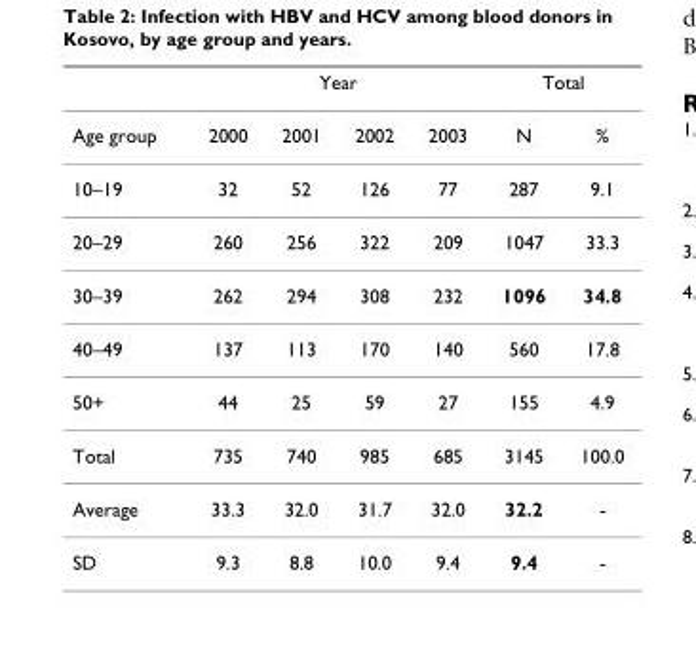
<table><thead><tr><td rowspan="2">Age group</td><td colspan="4">Year</td><td colspan="2">Total</td></tr><tr><td>2000</td><td>2001</td><td>2002</td><td>2003</td><td>N</td><td>%</td></tr></thead><tbody><tr><td>10–19</td><td>32</td><td>52</td><td>126</td><td>77</td><td>287</td><td>9.1</td></tr><tr><td>20–29</td><td>260</td><td>256</td><td>322</td><td>209</td><td>1047</td><td>33.3</td></tr><tr><td>30–39</td><td>262</td><td>294</td><td>308</td><td>232</td><td>1096</td><td>34.8</td></tr><tr><td>40–49</td><td>137</td><td>113</td><td>170</td><td>140</td><td>560</td><td>17.8</td></tr><tr><td>50+</td><td>44</td><td>25</td><td>59</td><td>27</td><td>155</td><td>4.9</td></tr><tr><td>Total</td><td>735</td><td>740</td><td>985</td><td>685</td><td>3145</td><td>100.0</td></tr><tr><td>Average</td><td>33.3</td><td>32.0</td><td>31.7</td><td>32.0</td><td>32.2</td><td>-</td></tr><tr><td>SD</td><td>9.3</td><td>8.8</td><td>10.0</td><td>9.4</td><td>9.4</td><td>-</td></tr></tbody></table>